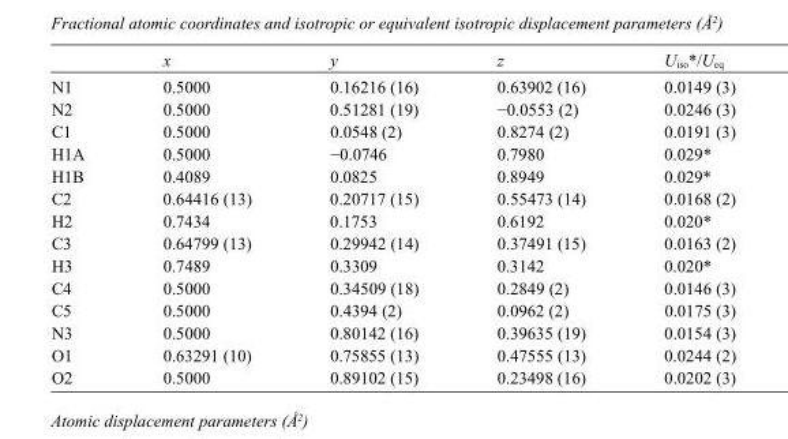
<table><thead><tr><td></td><td>x</td><td>y</td><td>z</td><td>U<sub>iso</sub>*/U<sub>eq</sub></td></tr></thead><tbody><tr><td>N1</td><td>0.5000</td><td>0.16216 (16)</td><td>0.63902 (16)</td><td>0.0149 (3)</td></tr><tr><td>N2</td><td>0.5000</td><td>0.51281 (19)</td><td>−0.0553 (2)</td><td>0.0246 (3)</td></tr><tr><td>C1</td><td>0.5000</td><td>0.0548 (2)</td><td>0.8274 (2)</td><td>0.0191 (3)</td></tr><tr><td>H1A</td><td>0.5000</td><td>−0.0746</td><td>0.7980</td><td>0.029*</td></tr><tr><td>H1B</td><td>0.4089</td><td>0.0825</td><td>0.8949</td><td>0.029*</td></tr><tr><td>C2</td><td>0.64416 (13)</td><td>0.20717 (15)</td><td>0.55473 (14)</td><td>0.0168 (2)</td></tr><tr><td>H2</td><td>0.7434</td><td>0.1753</td><td>0.6192</td><td>0.020*</td></tr><tr><td>C3</td><td>0.64799 (13)</td><td>0.29942 (14)</td><td>0.37491 (15)</td><td>0.0163 (2)</td></tr><tr><td>H3</td><td>0.7489</td><td>0.3309</td><td>0.3142</td><td>0.020*</td></tr><tr><td>C4</td><td>0.5000</td><td>0.34509 (18)</td><td>0.2849 (2)</td><td>0.0146 (3)</td></tr><tr><td>C5</td><td>0.5000</td><td>0.4394 (2)</td><td>0.0962 (2)</td><td>0.0175 (3)</td></tr><tr><td>N3</td><td>0.5000</td><td>0.80142 (16)</td><td>0.39635 (19)</td><td>0.0154 (3)</td></tr><tr><td>O1</td><td>0.63291 (10)</td><td>0.75855 (13)</td><td>0.47555 (13)</td><td>0.0244 (2)</td></tr><tr><td>O2</td><td>0.5000</td><td>0.89102 (15)</td><td>0.23498 (16)</td><td>0.0202 (3)</td></tr></tbody></table>